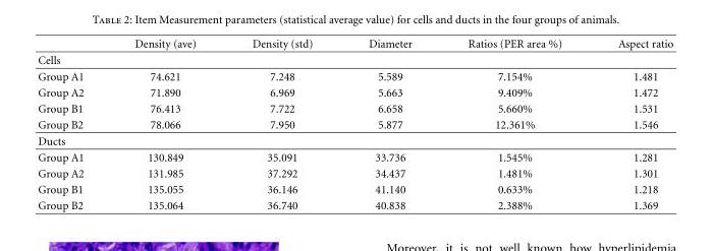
<table><thead><tr><td></td><td>Density (ave)</td><td>Density (std)</td><td>Diameter</td><td>Ratios (PER area %)</td><td>Aspect ratio</td></tr></thead><tbody><tr><td colspan="6">Cells</td></tr><tr><td>Group A1</td><td>74.621</td><td>7.248</td><td>5.589</td><td>7.154%</td><td>1.481</td></tr><tr><td>Group A2</td><td>71.890</td><td>6.969</td><td>5.663</td><td>9.409%</td><td>1.472</td></tr><tr><td>Group B1</td><td>76.413</td><td>7.722</td><td>6.658</td><td>5.660%</td><td>1.531</td></tr><tr><td>Group B2</td><td>78.066</td><td>7.950</td><td>5.877</td><td>12.361%</td><td>1.546</td></tr><tr><td colspan="6">Ducts</td></tr><tr><td>Group A1</td><td>130.849</td><td>35.091</td><td>33.736</td><td>1.545%</td><td>1.281</td></tr><tr><td>Group A2</td><td>131.985</td><td>37.292</td><td>34.437</td><td>1.481%</td><td>1.301</td></tr><tr><td>Group B1</td><td>135.055</td><td>36.146</td><td>41.140</td><td>0.633%</td><td>1.218</td></tr><tr><td>Group B2</td><td>135.064</td><td>36.740</td><td>40.838</td><td>2.388%</td><td>1.369</td></tr></tbody></table>